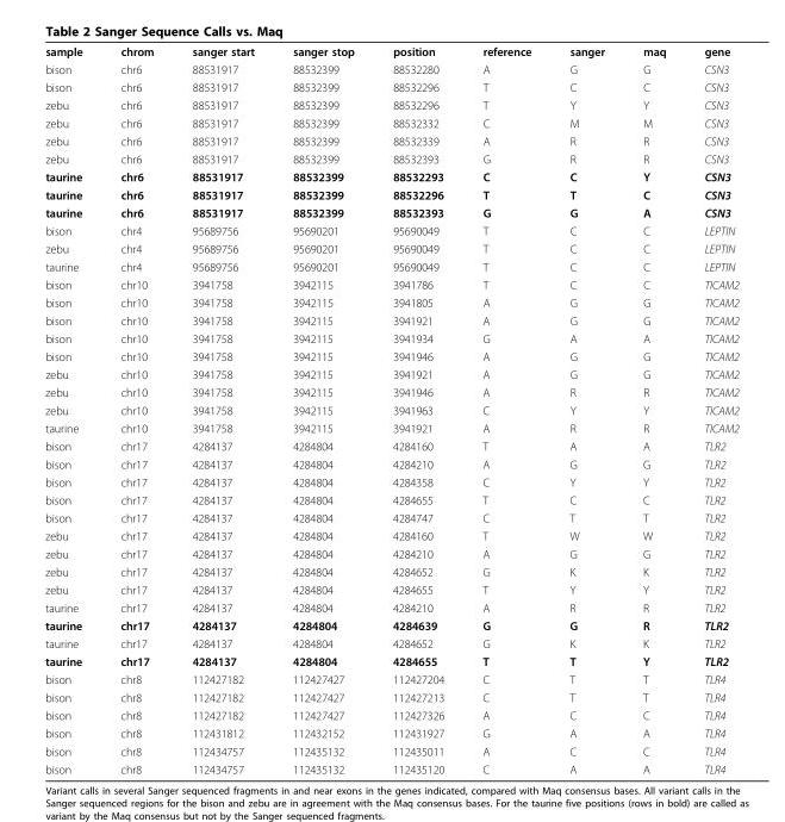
<table><tbody><tr><td>sample</td><td>chrom</td><td>sanger start</td><td>sanger stop</td><td>position</td><td>reference</td><td>sanger</td><td>maq</td><td>gene</td></tr><tr><td>bison</td><td>chr6</td><td>88531917</td><td>88532399</td><td>88532280</td><td>A</td><td>G</td><td>G</td><td>CSN3</td></tr><tr><td>bison</td><td>chr6</td><td>88531917</td><td>88532399</td><td>88532296</td><td>T</td><td>C</td><td>C</td><td>CSN3</td></tr><tr><td>zebu</td><td>chr6</td><td>88531917</td><td>88532399</td><td>88532296</td><td>T</td><td>Y</td><td>Y</td><td>CSN3</td></tr><tr><td>zebu</td><td>chr6</td><td>88531917</td><td>88532399</td><td>88532332</td><td>C</td><td>M</td><td>M</td><td>CSN3</td></tr><tr><td>zebu</td><td>chr6</td><td>88531917</td><td>88532399</td><td>88532339</td><td>A</td><td>R</td><td>R</td><td>CSN3</td></tr><tr><td>zebu</td><td>chr6</td><td>88531917</td><td>88532399</td><td>88532393</td><td>G</td><td>R</td><td>R</td><td>CSN3</td></tr><tr><td>taurine</td><td>chr6</td><td>88531917</td><td>88532399</td><td>88532293</td><td>C</td><td>C</td><td>Y</td><td>CSN3</td></tr><tr><td>taurine</td><td>chr6</td><td>88531917</td><td>88532399</td><td>88532296</td><td>T</td><td>T</td><td>C</td><td>CSN3</td></tr><tr><td>taurine</td><td>chr6</td><td>88531917</td><td>88532399</td><td>88532393</td><td>G</td><td>G</td><td>A</td><td>CSN3</td></tr><tr><td>bison</td><td>chr4</td><td>95689756</td><td>95690201</td><td>95690049</td><td>T</td><td>C</td><td>C</td><td>LEPTIN</td></tr><tr><td>zebu</td><td>chr4</td><td>95689756</td><td>95690201</td><td>95690049</td><td>T</td><td>C</td><td>C</td><td>LEPTIN</td></tr><tr><td>taurine</td><td>chr4</td><td>95689756</td><td>95690201</td><td>95690049</td><td>T</td><td>C</td><td>C</td><td>LEPTIN</td></tr><tr><td>bison</td><td>chr10</td><td>3941758</td><td>3942115</td><td>3941786</td><td>T</td><td>C</td><td>C</td><td>TICAM2</td></tr><tr><td>bison</td><td>chr10</td><td>3941758</td><td>3942115</td><td>3941805</td><td>A</td><td>G</td><td>G</td><td>TICAM2</td></tr><tr><td>bison</td><td>chr10</td><td>3941758</td><td>3942115</td><td>3941921</td><td>A</td><td>G</td><td>G</td><td>TICAM2</td></tr><tr><td>bison</td><td>chr10</td><td>3941758</td><td>3942115</td><td>3941934</td><td>G</td><td>A</td><td>A</td><td>TICAM2</td></tr><tr><td>bison</td><td>chr10</td><td>3941758</td><td>3942115</td><td>3941946</td><td>A</td><td>G</td><td>G</td><td>TICAM2</td></tr><tr><td>zebu</td><td>chr10</td><td>3941758</td><td>3942115</td><td>3941921</td><td>A</td><td>G</td><td>G</td><td>TICAM2</td></tr><tr><td>zebu</td><td>chr10</td><td>3941758</td><td>3942115</td><td>3941946</td><td>A</td><td>R</td><td>R</td><td>TICAM2</td></tr><tr><td>zebu</td><td>chr10</td><td>3941758</td><td>3942115</td><td>3941963</td><td>C</td><td>Y</td><td>Y</td><td>TICAM2</td></tr><tr><td>taurine</td><td>chr10</td><td>3941758</td><td>3942115</td><td>3941921</td><td>A</td><td>R</td><td>R</td><td>TICAM2</td></tr><tr><td>bison</td><td>chr17</td><td>4284137</td><td>4284804</td><td>4284160</td><td>T</td><td>A</td><td>A</td><td>TLR2</td></tr><tr><td>bison</td><td>chr17</td><td>4284137</td><td>4284804</td><td>4284210</td><td>A</td><td>G</td><td>G</td><td>TLR2</td></tr><tr><td>bison</td><td>chr17</td><td>4284137</td><td>4284804</td><td>4284358</td><td>C</td><td>Y</td><td>Y</td><td>TLR2</td></tr><tr><td>bison</td><td>chr17</td><td>4284137</td><td>4284804</td><td>4284655</td><td>T</td><td>C</td><td>C</td><td>TLR2</td></tr><tr><td>bison</td><td>chr17</td><td>4284137</td><td>4284804</td><td>4284747</td><td>C</td><td>T</td><td>T</td><td>TLR2</td></tr><tr><td>zebu</td><td>chr17</td><td>4284137</td><td>4284804</td><td>4284160</td><td>T</td><td>W</td><td>W</td><td>TLR2</td></tr><tr><td>zebu</td><td>chr17</td><td>4284137</td><td>4284804</td><td>4284210</td><td>A</td><td>G</td><td>G</td><td>TLR2</td></tr><tr><td>zebu</td><td>chr17</td><td>4284137</td><td>4284804</td><td>4284652</td><td>G</td><td>K</td><td>K</td><td>TLR2</td></tr><tr><td>zebu</td><td>chr17</td><td>4284137</td><td>4284804</td><td>4284655</td><td>T</td><td>Y</td><td>Y</td><td>TLR2</td></tr><tr><td>taurine</td><td>chr17</td><td>4284137</td><td>4284804</td><td>4284210</td><td>A</td><td>R</td><td>R</td><td>TLR2</td></tr><tr><td>taurine</td><td>chr17</td><td>4284137</td><td>4284804</td><td>4284639</td><td>G</td><td>G</td><td>R</td><td>TLR2</td></tr><tr><td>taurine</td><td>chr17</td><td>4284137</td><td>4284804</td><td>4284652</td><td>G</td><td>K</td><td>K</td><td>TLR2</td></tr><tr><td>taurine</td><td>chr17</td><td>4284137</td><td>4284804</td><td>4284655</td><td>T</td><td>T</td><td>Y</td><td>TLR2</td></tr><tr><td>bison</td><td>chr8</td><td>112427182</td><td>112427427</td><td>112427204</td><td>C</td><td>T</td><td>T</td><td>TLR4</td></tr><tr><td>bison</td><td>chr8</td><td>112427182</td><td>112427427</td><td>112427213</td><td>C</td><td>T</td><td>T</td><td>TLR4</td></tr><tr><td>bison</td><td>chr8</td><td>112427182</td><td>112427427</td><td>112427326</td><td>A</td><td>C</td><td>C</td><td>TLR4</td></tr><tr><td>bison</td><td>chr8</td><td>112431812</td><td>112432152</td><td>112431927</td><td>G</td><td>A</td><td>A</td><td>TLR4</td></tr><tr><td>bison</td><td>chr8</td><td>112434757</td><td>112435132</td><td>112435011</td><td>A</td><td>C</td><td>C</td><td>TLR4</td></tr><tr><td>bison</td><td>chr8</td><td>112434757</td><td>112435132</td><td>112435120</td><td>C</td><td>A</td><td>A</td><td>TLR4</td></tr></tbody></table>